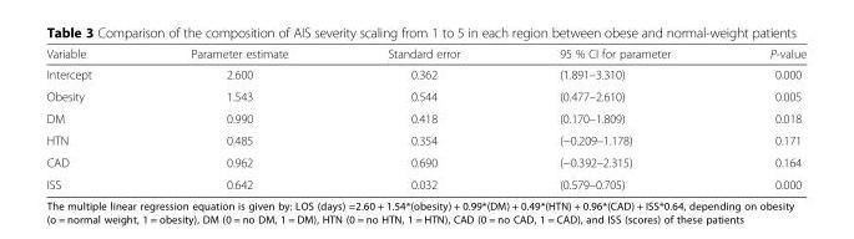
<table><thead><tr><td>Variable</td><td>Parameter estimate</td><td>Standard error</td><td>95 % CI for parameter</td><td>P-value</td></tr></thead><tbody><tr><td>Intercept</td><td>2.600</td><td>0.362</td><td>(1.891–3.310)</td><td>0.000</td></tr><tr><td>Obesity</td><td>1.543</td><td>0.544</td><td>(0.477–2.610)</td><td>0.005</td></tr><tr><td>DM</td><td>0.990</td><td>0.418</td><td>(0.170–1.809)</td><td>0.018</td></tr><tr><td>HTN</td><td>0.485</td><td>0.354</td><td>(−0.209–1.178)</td><td>0.171</td></tr><tr><td>CAD</td><td>0.962</td><td>0.690</td><td>(−0.392–2.315)</td><td>0.164</td></tr><tr><td>ISS</td><td>0.642</td><td>0.032</td><td>(0.579–0.705)</td><td>0.000</td></tr></tbody></table>